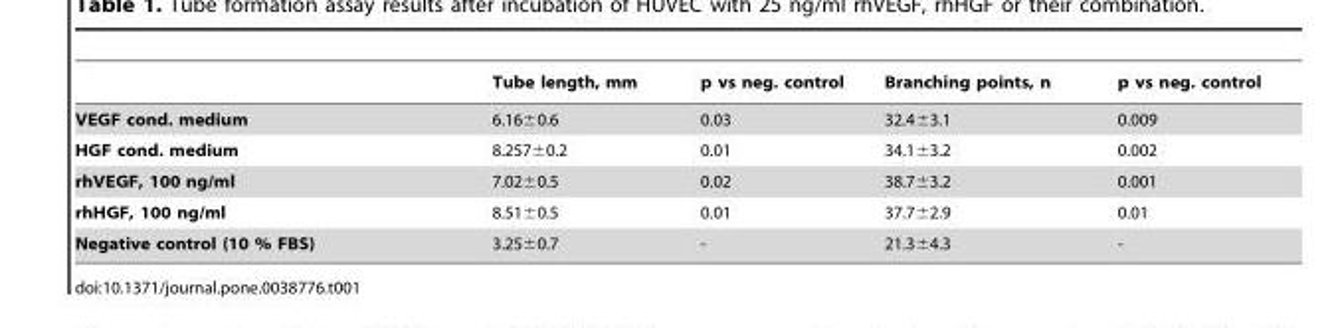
<table><thead><tr><td></td><td>Tube length, mm</td><td>p vs neg. control</td><td>Branching points, n</td><td>p vs neg. control</td></tr></thead><tbody><tr><td>VEGF cond. medium</td><td>6.16±0.6</td><td>0.03</td><td>32.4±3.1</td><td>0.009</td></tr><tr><td>HGF cond. medium</td><td>8.257±0.2</td><td>0.01</td><td>34.1±3.2</td><td>0.002</td></tr><tr><td>rhVEGF, 100 ng/ml</td><td>7.02±0.5</td><td>0.02</td><td>38.7±3.2</td><td>0.001</td></tr><tr><td>rhHGF, 100 ng/ml</td><td>8.51±0.5</td><td>0.01</td><td>37.7±2.9</td><td>0.01</td></tr><tr><td>Negative control (10 % FBS)</td><td>3.25±0.7</td><td>-</td><td>21.3±4.3</td><td>-</td></tr></tbody></table>